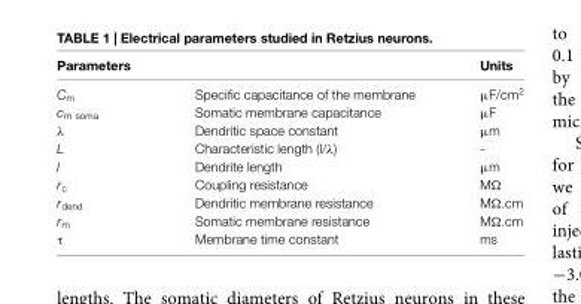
<table><thead><tr><td>Parameters</td><td></td><td>Units</td></tr></thead><tbody><tr><td>C<sub>m</sub></td><td>Specific capacitance of the membrane</td><td>µF/cm<sup>2</sup></td></tr><tr><td>c<sub>m soma</sub></td><td>Somatic membrane capacitance</td><td>µF</td></tr><tr><td>λ</td><td>Dendritic space constant</td><td>µm</td></tr><tr><td>L</td><td>Characteristic length (l/λ)</td><td>-</td></tr><tr><td>l</td><td>Dendrite length</td><td>µm</td></tr><tr><td>r<sub>c</sub></td><td>Coupling resistance</td><td>MΩ</td></tr><tr><td>r<sub>dend</sub></td><td>Dendritic membrane resistance</td><td>MΩ.cm</td></tr><tr><td>r<sub>m</sub></td><td>Somatic membrane resistance</td><td>MΩ.cm</td></tr><tr><td>τ</td><td>Membrane time constant</td><td>ms</td></tr></tbody></table>